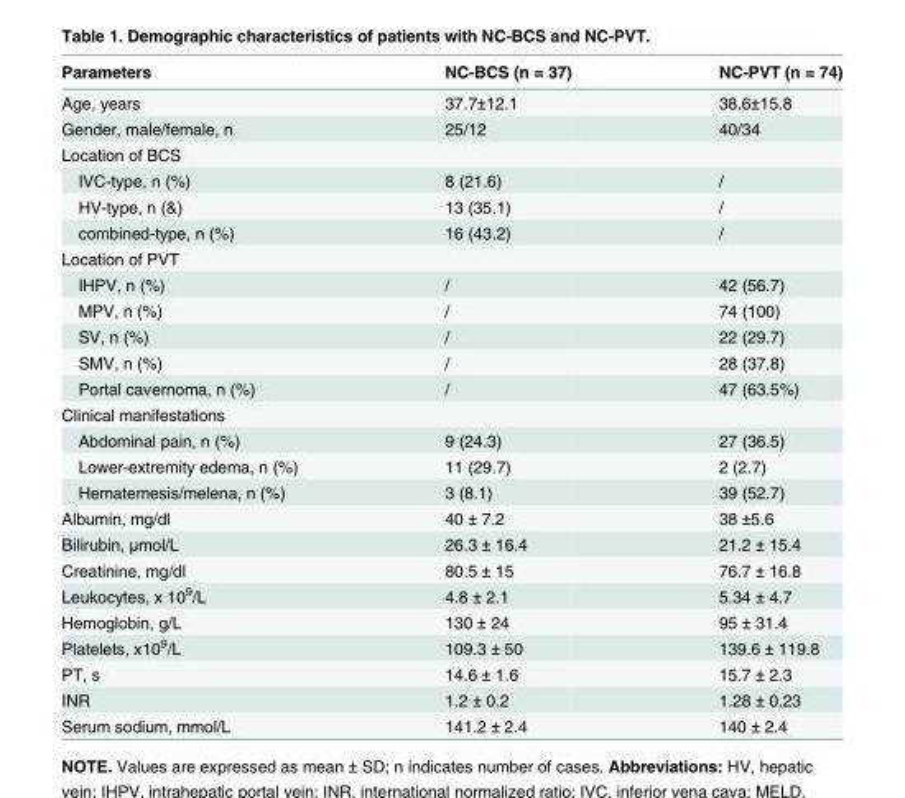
<table><thead><tr><td>Parameters</td><td>NC-BCS (n = 37)</td><td>NC-PVT (n = 74)</td></tr></thead><tbody><tr><td>Age, years</td><td>37.7±12.1</td><td>38.6±15.8</td></tr><tr><td>Gender, male/female, n</td><td>25/12</td><td>40/34</td></tr><tr><td colspan="3">Location of BCS</td></tr><tr><td>IVC-type, n (%)</td><td>8 (21.6)</td><td>/</td></tr><tr><td>HV-type, n (&amp;)</td><td>13 (35.1)</td><td>/</td></tr><tr><td>combined-type, n (%)</td><td>16 (43.2)</td><td>/</td></tr><tr><td colspan="3">Location of PVT</td></tr><tr><td>IHPV, n (%)</td><td>/</td><td>42 (56.7)</td></tr><tr><td>MPV, n (%)</td><td>/</td><td>74 (100)</td></tr><tr><td>SV, n (%)</td><td>/</td><td>22 (29.7)</td></tr><tr><td>SMV, n (%)</td><td>/</td><td>28 (37.8)</td></tr><tr><td>Portal cavernoma, n (%)</td><td>/</td><td>47 (63.5%)</td></tr><tr><td colspan="3">Clinical manifestations</td></tr><tr><td>Abdominal pain, n (%)</td><td>9 (24.3)</td><td>27 (36.5)</td></tr><tr><td>Lower-extremity edema, n (%)</td><td>11 (29.7)</td><td>2 (2.7)</td></tr><tr><td>Hematemesis/melena, n (%)</td><td>3 (8.1)</td><td>39 (52.7)</td></tr><tr><td>Albumin, mg/dl</td><td>40 ± 7.2</td><td>38 ±5.6</td></tr><tr><td>Bilirubin, μmol/L</td><td>26.3 ± 16.4</td><td>21.2 ± 15.4</td></tr><tr><td>Creatinine, mg/dl</td><td>80.5 ± 15</td><td>76.7 ± 16.8</td></tr><tr><td>Leukocytes, x 10<sup>9</sup>/L</td><td>4.8 ± 2.1</td><td>5.34 ± 4.7</td></tr><tr><td>Hemoglobin, g/L</td><td>130 ± 24</td><td>95 ± 31.4</td></tr><tr><td>Platelets, x10<sup>9</sup>/L</td><td>109.3 ± 50</td><td>139.6 ± 119.8</td></tr><tr><td>PT, s</td><td>14.6 ± 1.6</td><td>15.7 ± 2.3</td></tr><tr><td>INR</td><td>1.2 ± 0.2</td><td>1.28 ± 0.23</td></tr><tr><td>Serum sodium, mmol/L</td><td>141.2 ± 2.4</td><td>140 ± 2.4</td></tr></tbody></table>